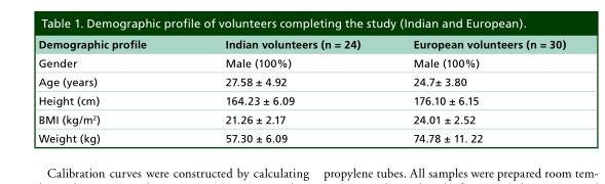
<table><thead><tr><td>Demographic profile</td><td>Indian volunteers (n = 24)</td><td>European volunteers (n = 30)</td></tr></thead><tbody><tr><td>Gender</td><td>Male (100%)</td><td>Male (100%)</td></tr><tr><td>Age (years)</td><td>27.58 ± 4.92</td><td>24.7± 3.80</td></tr><tr><td>Height (cm)</td><td>164.23 ± 6.09</td><td>176.10 ± 6.15</td></tr><tr><td>BMI (kg/m<sup>2</sup>)</td><td>21.26 ± 2.17</td><td>24.01 ± 2.52</td></tr><tr><td>Weight (kg)</td><td>57.30 ± 6.09</td><td>74.78 ± 11. 22</td></tr></tbody></table>